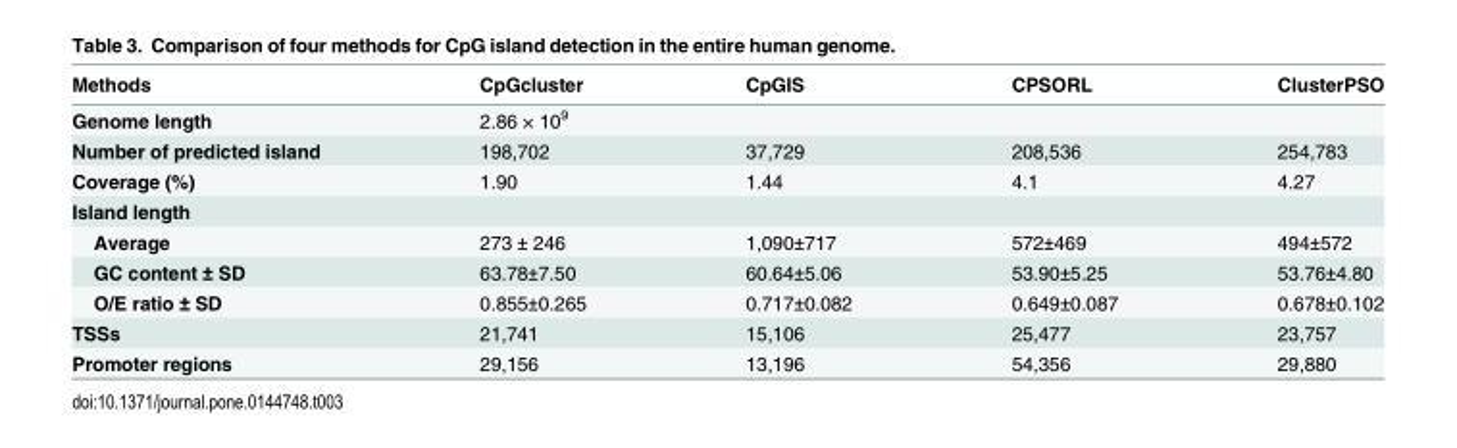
<table><thead><tr><td>Methods</td><td>CpGcluster</td><td>CpGIS</td><td>CPSORL</td><td>ClusterPSO</td></tr></thead><tbody><tr><td>Genome length</td><td colspan="4">2.86 × 10<sup>9</sup></td></tr><tr><td>Number of predicted island</td><td>198,702</td><td>37,729</td><td>208,536</td><td>254,783</td></tr><tr><td>Coverage (%)</td><td>1.90</td><td>1.44</td><td>4.1</td><td>4.27</td></tr><tr><td colspan="5">Island length</td></tr><tr><td>Average</td><td>273 ± 246</td><td>1,090±717</td><td>572±469</td><td>494±572</td></tr><tr><td>GC content ± SD</td><td>63.78±7.50</td><td>60.64±5.06</td><td>53.90±5.25</td><td>53.76±4.80</td></tr><tr><td>O/E ratio ± SD</td><td>0.855±0.265</td><td>0.717±0.082</td><td>0.649±0.087</td><td>0.678±0.102</td></tr><tr><td>TSSs</td><td>21,741</td><td>15,106</td><td>25,477</td><td>23,757</td></tr><tr><td>Promoter regions</td><td>29,156</td><td>13,196</td><td>54,356</td><td>29,880</td></tr></tbody></table>